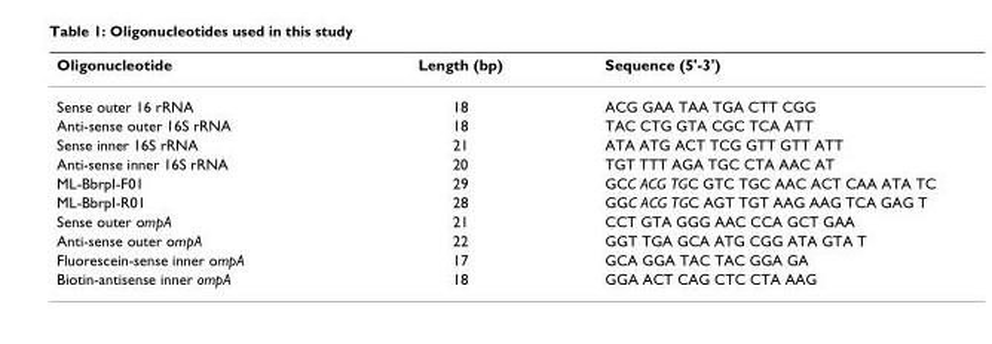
<table><thead><tr><td>Oligonucleotide</td><td>Length (bp)</td><td>Sequence (5&#x27;-3&#x27;)</td></tr></thead><tbody><tr><td>Sense outer 16 rRNA</td><td>18</td><td>ACG GAA TAA TGA CTT CGG</td></tr><tr><td>Anti-sense outer 16S rRNA</td><td>18</td><td>TAC CTG GTA CGC TCA ATT</td></tr><tr><td>Sense inner 16S rRNA</td><td>21</td><td>ATA ATG ACT TCG GTT GTT ATT</td></tr><tr><td>Anti-sense inner 16S rRNA</td><td>20</td><td>TGT TTT AGA TGC CTA AAC AT</td></tr><tr><td>ML-BbrpI-F01</td><td>29</td><td>GCC ACG TGC GTC TGC AAC ACT CAA ATA TC</td></tr><tr><td>ML-BbrpI-R01</td><td>28</td><td>GGC ACG TGC AGT TGT AAG AAG TCA GAG T</td></tr><tr><td>Sense outer ompA</td><td>21</td><td>CCT GTA GGG AAC CCA GCT GAA</td></tr><tr><td>Anti-sense outer ompA</td><td>22</td><td>GGT TGA GCA ATG CGG ATA GTA T</td></tr><tr><td>Fluorescein-sense inner ompA</td><td>17</td><td>GCA GGA TAC TAC GGA GA</td></tr><tr><td>Biotin-antisense inner ompA</td><td>18</td><td>GGA ACT CAG CTC CTA AAG</td></tr></tbody></table>